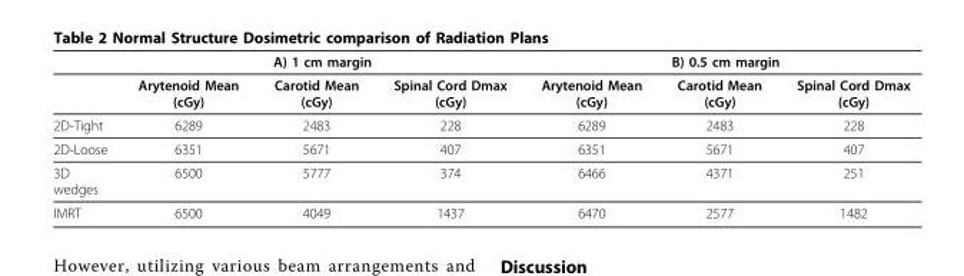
<table><thead><tr><td rowspan="2"></td><td colspan="3">A) 1 cm margin</td><td colspan="3">B) 0.5 cm margin</td></tr><tr><td>Arytenoid Mean (cGy)</td><td>Carotid Mean (cGy)</td><td>Spinal Cord Dmax (cGy)</td><td>Arytenoid Mean (cGy)</td><td>Carotid Mean (cGy)</td><td>Spinal Cord Dmax (cGy)</td></tr></thead><tbody><tr><td>2D-Tight</td><td>6289</td><td>2483</td><td>228</td><td>6289</td><td>2483</td><td>228</td></tr><tr><td>2D-Loose</td><td>6351</td><td>5671</td><td>407</td><td>6351</td><td>5671</td><td>407</td></tr><tr><td>3D wedges</td><td>6500</td><td>5777</td><td>374</td><td>6466</td><td>4371</td><td>251</td></tr><tr><td>IMRT</td><td>6500</td><td>4049</td><td>1437</td><td>6470</td><td>2577</td><td>1482</td></tr></tbody></table>